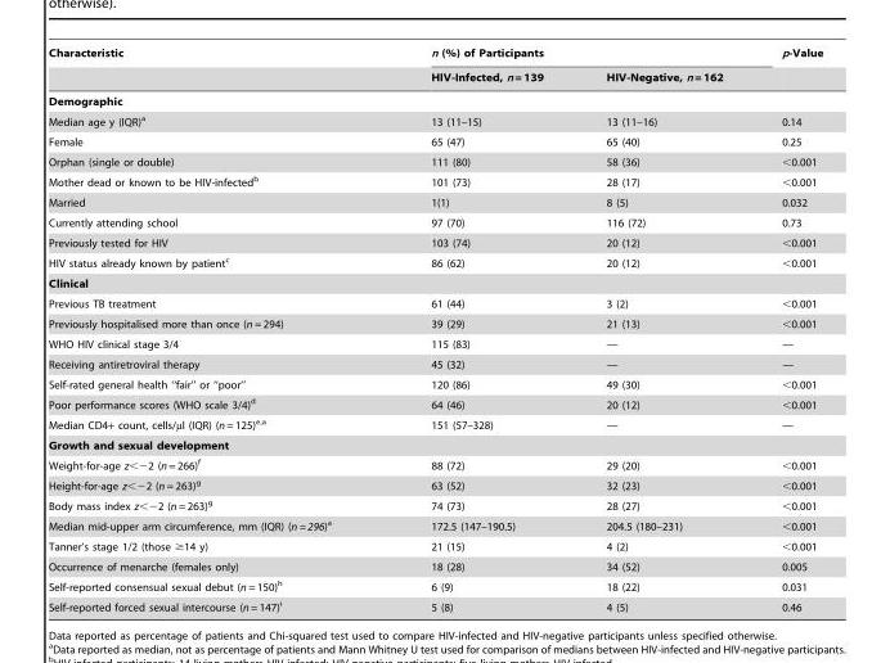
<table><thead><tr><td rowspan="2">Characteristic</td><td colspan="2">n (%) of Participants</td><td rowspan="2">p-Value</td></tr><tr><td>HIV-Infected, n = 139</td><td>HIV-Negative, n = 162</td></tr></thead><tbody><tr><td colspan="4">Demographic</td></tr><tr><td>Median age y (IQR)<sup>a</sup></td><td>13 (11–15)</td><td>13 (11–16)</td><td>0.14</td></tr><tr><td>Female</td><td>65 (47)</td><td>65 (40)</td><td>0.25</td></tr><tr><td>Orphan (single or double)</td><td>111 (80)</td><td>58 (36)</td><td>&lt;0.001</td></tr><tr><td>Mother dead or known to be HIV-infected<sup>b</sup></td><td>101 (73)</td><td>28 (17)</td><td>&lt;0.001</td></tr><tr><td>Married</td><td>1(1)</td><td>8 (5)</td><td>0.032</td></tr><tr><td>Currently attending school</td><td>97 (70)</td><td>116 (72)</td><td>0.73</td></tr><tr><td>Previously tested for HIV</td><td>103 (74)</td><td>20 (12)</td><td>&lt;0.001</td></tr><tr><td>HIV status already known by patient<sup>c</sup></td><td>86 (62)</td><td>20 (12)</td><td>&lt;0.001</td></tr><tr><td colspan="4">Clinical</td></tr><tr><td>Previous TB treatment</td><td>61 (44)</td><td>3 (2)</td><td>&lt;0.001</td></tr><tr><td>Previously hospitalised more than once (n = 294)</td><td>39 (29)</td><td>21 (13)</td><td>&lt;0.001</td></tr><tr><td>WHO HIV clinical stage 3/4</td><td>115 (83)</td><td>—</td><td>—</td></tr><tr><td>Receiving antiretroviral therapy</td><td>45 (32)</td><td>—</td><td>—</td></tr><tr><td>Self-rated general health ‘‘fair’’ or ‘‘poor’’</td><td>120 (86)</td><td>49 (30)</td><td>&lt;0.001</td></tr><tr><td>Poor performance scores (WHO scale 3/4)<sup>d</sup></td><td>64 (46)</td><td>20 (12)</td><td>&lt;0.001</td></tr><tr><td>Median CD4+ count, cells/µl (IQR) (n = 125)<sup>e,</sup>a</td><td>151 (57–328)</td><td>—</td><td>—</td></tr><tr><td colspan="4">Growth and sexual development</td></tr><tr><td>Weight-for-age z&lt;−2 (n = 266)<sup>f</sup></td><td>88 (72)</td><td>29 (20)</td><td>&lt;0.001</td></tr><tr><td>Height-for-age z&lt;−2 (n = 263)<sup>g</sup></td><td>63 (52)</td><td>32 (23)</td><td>&lt;0.001</td></tr><tr><td>Body mass index z&lt;−2 (n = 263)<sup>g</sup></td><td>74 (73)</td><td>28 (27)</td><td>&lt;0.001</td></tr><tr><td>Median mid-upper arm circumference, mm (IQR) (n = 296)<sup>a</sup></td><td>172.5 (147–190.5)</td><td>204.5 (180–231)</td><td>&lt;0.001</td></tr><tr><td>Tanner’s stage 1/2 (those ≥14 y)</td><td>21 (15)</td><td>4 (2)</td><td>&lt;0.001</td></tr><tr><td>Occurrence of menarche (females only)</td><td>18 (28)</td><td>34 (52)</td><td>0.005</td></tr><tr><td>Self-reported consensual sexual debut (n = 150)<sup>h</sup></td><td>6 (9)</td><td>18 (22)</td><td>0.031</td></tr><tr><td>Self-reported forced sexual intercourse (n = 147)<sup>i</sup></td><td>5 (8)</td><td>4 (5)</td><td>0.46</td></tr></tbody></table>